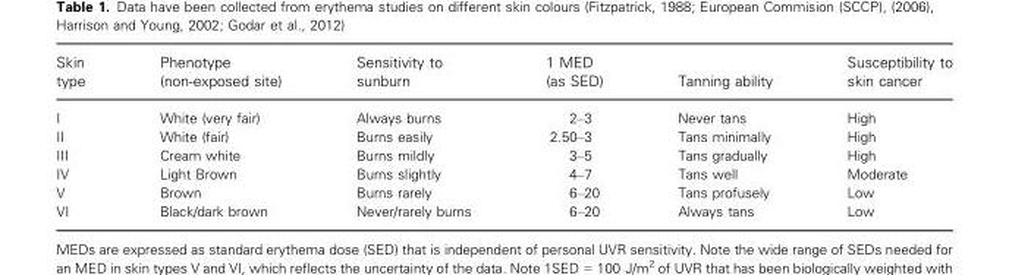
<table><thead><tr><td>Skin type</td><td>Phenotype (non-exposed site)</td><td>Sensitivity to sunburn</td><td>1 MED (as SED)</td><td>Tanning ability</td><td>Susceptibility to skin cancer</td></tr></thead><tbody><tr><td>I</td><td>White (very fair)</td><td>Always burns</td><td>2–3</td><td>Never tans</td><td>High</td></tr><tr><td>II</td><td>White (fair)</td><td>Burns easily</td><td>2.50–3</td><td>Tans minimally</td><td>High</td></tr><tr><td>III</td><td>Cream white</td><td>Burns mildly</td><td>3–5</td><td>Tans gradually</td><td>High</td></tr><tr><td>IV</td><td>Light Brown</td><td>Burns slightly</td><td>4–7</td><td>Tans well</td><td>Moderate</td></tr><tr><td>V</td><td>Brown</td><td>Burns rarely</td><td>6–20</td><td>Tans profusely</td><td>Low</td></tr><tr><td>VI</td><td>Black/dark brown</td><td>Never/rarely burns</td><td>6–20</td><td>Always tans</td><td>Low</td></tr></tbody></table>